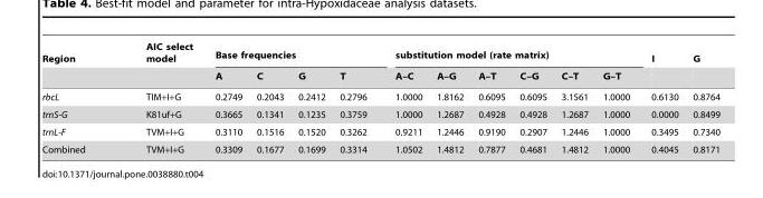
<table><thead><tr><td rowspan="2">Region</td><td rowspan="2">AIC select model</td><td colspan="4">Base frequencies</td><td colspan="6">substitution model (rate matrix)</td><td rowspan="2">I</td><td rowspan="2">G</td></tr><tr><td>A</td><td>C</td><td>G</td><td>T</td><td>A–C</td><td>A–G</td><td>A–T</td><td>C–G</td><td>C–T</td><td>G–T</td></tr></thead><tbody><tr><td>rbcL</td><td>TIM+I+G</td><td>0.2749</td><td>0.2043</td><td>0.2412</td><td>0.2796</td><td>1.0000</td><td>1.8162</td><td>0.6095</td><td>0.6095</td><td>3.1561</td><td>1.0000</td><td>0.6130</td><td>0.8764</td></tr><tr><td>trnS-G</td><td>K81uf+G</td><td>0.3665</td><td>0.1341</td><td>0.1235</td><td>0.3759</td><td>1.0000</td><td>1.2687</td><td>0.4928</td><td>0.4928</td><td>1.2687</td><td>1.0000</td><td>0.0000</td><td>0.8499</td></tr><tr><td>trnL-F</td><td>TVM+I+G</td><td>0.3110</td><td>0.1516</td><td>0.1520</td><td>0.3262</td><td>0.9211</td><td>1.2446</td><td>0.9190</td><td>0.2907</td><td>1.2446</td><td>1.0000</td><td>0.3495</td><td>0.7340</td></tr><tr><td>Combined</td><td>TVM+I+G</td><td>0.3309</td><td>0.1677</td><td>0.1699</td><td>0.3314</td><td>1.0502</td><td>1.4812</td><td>0.7877</td><td>0.4681</td><td>1.4812</td><td>1.0000</td><td>0.4045</td><td>0.8171</td></tr></tbody></table>